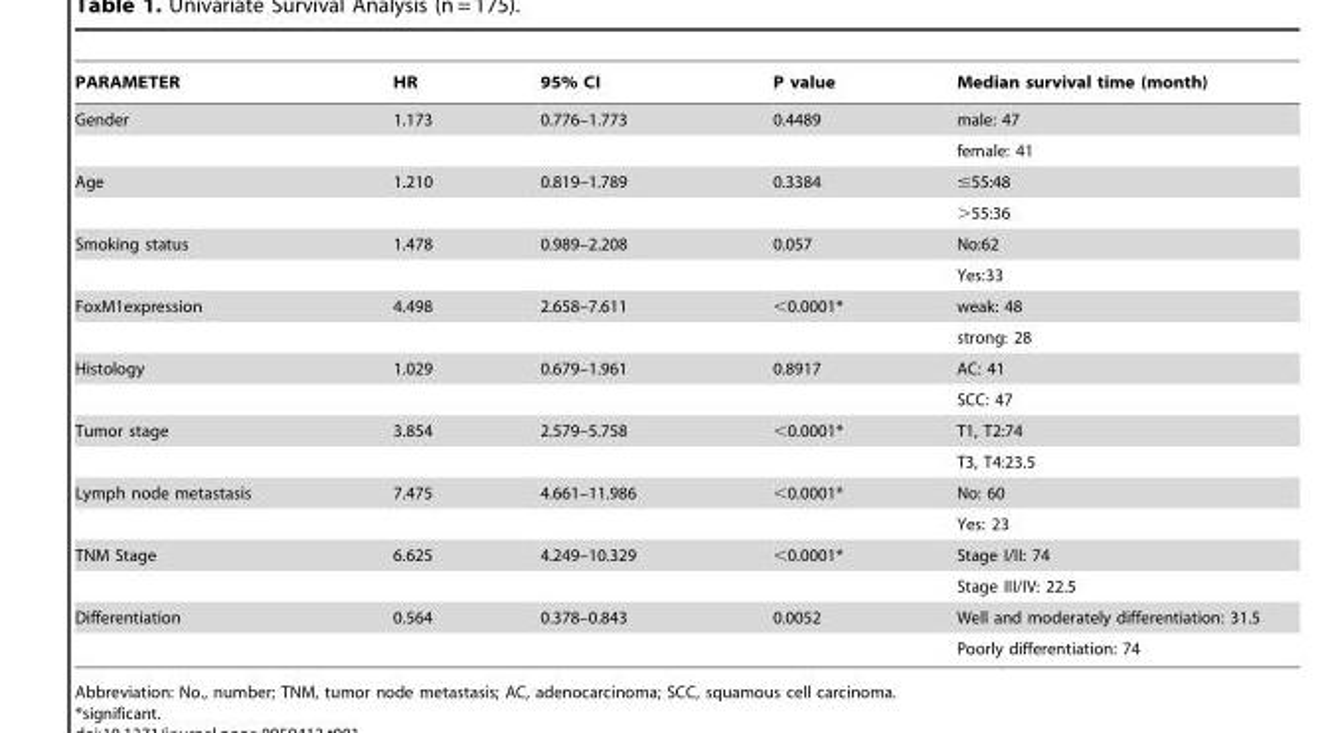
<table><thead><tr><td>PARAMETER</td><td>HR</td><td>95% CI</td><td>P value</td><td>Median survival time (month)</td></tr></thead><tbody><tr><td rowspan="2">Gender</td><td>1.173</td><td>0.776–1.773</td><td>0.4489</td><td>male: 47</td></tr><tr><td></td><td></td><td></td><td>female: 41</td></tr><tr><td rowspan="2">Age</td><td>1.210</td><td>0.819–1.789</td><td>0.3384</td><td>≤55:48</td></tr><tr><td></td><td></td><td></td><td>&gt;55:36</td></tr><tr><td rowspan="2">Smoking status</td><td>1.478</td><td>0.989–2.208</td><td>0.057</td><td>No:62</td></tr><tr><td></td><td></td><td></td><td>Yes:33</td></tr><tr><td rowspan="2">FoxM1expression</td><td>4.498</td><td>2.658–7.611</td><td>&lt;0.0001*</td><td>weak: 48</td></tr><tr><td></td><td></td><td></td><td>strong: 28</td></tr><tr><td rowspan="2">Histology</td><td>1.029</td><td>0.679–1.961</td><td>0.8917</td><td>AC: 41</td></tr><tr><td></td><td></td><td></td><td>SCC: 47</td></tr><tr><td rowspan="2">Tumor stage</td><td>3.854</td><td>2.579–5.758</td><td>&lt;0.0001*</td><td>T1, T2:74</td></tr><tr><td></td><td></td><td></td><td>T3, T4:23.5</td></tr><tr><td rowspan="2">Lymph node metastasis</td><td>7.475</td><td>4.661–11.986</td><td>&lt;0.0001*</td><td>No: 60</td></tr><tr><td></td><td></td><td></td><td>Yes: 23</td></tr><tr><td rowspan="2">TNM Stage</td><td>6.625</td><td>4.249–10.329</td><td>&lt;0.0001*</td><td>Stage I/II: 74</td></tr><tr><td></td><td></td><td></td><td>Stage III/IV: 22.5</td></tr><tr><td rowspan="2">Differentiation</td><td>0.564</td><td>0.378–0.843</td><td>0.0052</td><td>Well and moderately differentiation: 31.5</td></tr><tr><td></td><td></td><td></td><td>Poorly differentiation: 74</td></tr></tbody></table>